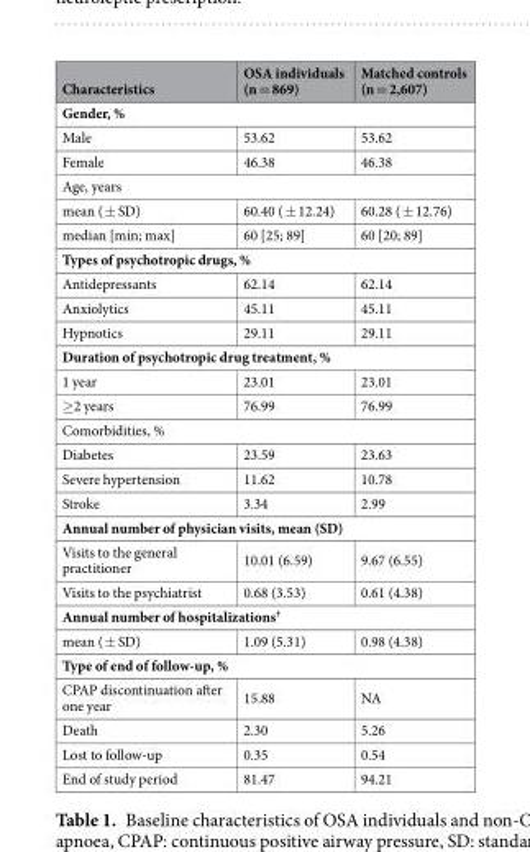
<table><thead><tr><td>Characteristics</td><td>OSA individuals (n = 869)</td><td>Matched controls (n = 2,607)</td></tr></thead><tbody><tr><td colspan="3">Gender, %</td></tr><tr><td>Male</td><td>53.62</td><td>53.62</td></tr><tr><td>Female</td><td>46.38</td><td>46.38</td></tr><tr><td colspan="3">Age, years</td></tr><tr><td>mean ( ± SD)</td><td>60.40 ( ± 12.24)</td><td>60.28 ( ± 12.76)</td></tr><tr><td>median [min; max]</td><td>60 [25; 89]</td><td>60 [20; 89]</td></tr><tr><td colspan="3">Types of psychotropic drugs, %</td></tr><tr><td>Antidepressants</td><td>62.14</td><td>62.14</td></tr><tr><td>Anxiolytics</td><td>45.11</td><td>45.11</td></tr><tr><td>Hypnotics</td><td>29.11</td><td>29.11</td></tr><tr><td colspan="3">Duration of psychotropic drug treatment, %</td></tr><tr><td>1 year</td><td>23.01</td><td>23.01</td></tr><tr><td>≥2 years</td><td>76.99</td><td>76.99</td></tr><tr><td colspan="3">Comorbidities, %</td></tr><tr><td>Diabetes</td><td>23.59</td><td>23.63</td></tr><tr><td>Severe hypertension</td><td>11.62</td><td>10.78</td></tr><tr><td>Stroke</td><td>3.34</td><td>2.99</td></tr><tr><td colspan="3">Annual number of physician visits, mean (SD)</td></tr><tr><td>Visits to the general practitioner</td><td>10.01 (6.59)</td><td>9.67 (6.55)</td></tr><tr><td>Visits to the psychiatrist</td><td>0.68 (3.53)</td><td>0.61 (4.38)</td></tr><tr><td colspan="3">Annual number of hospitalizations<sup>†</sup></td></tr><tr><td>mean ( ± SD)</td><td>1.09 (5.31)</td><td>0.98 (4.38)</td></tr><tr><td colspan="3">Type of end of follow-up, %</td></tr><tr><td>CPAP discontinuation after one year</td><td>15.88</td><td>NA</td></tr><tr><td>Death</td><td>2.30</td><td>5.26</td></tr><tr><td>Lost to follow-up</td><td>0.35</td><td>0.54</td></tr><tr><td>End of study period</td><td>81.47</td><td>94.21</td></tr></tbody></table>